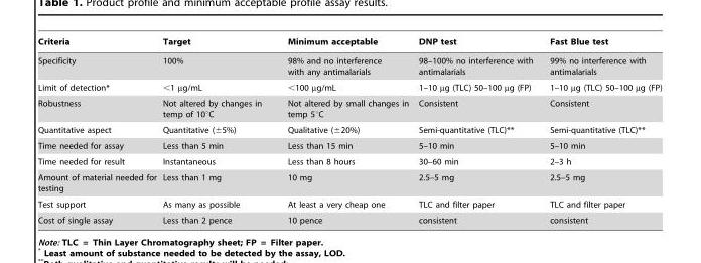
<table><thead><tr><td>Criteria</td><td>Target</td><td>Minimum acceptable</td><td>DNP test</td><td>Fast Blue test</td></tr></thead><tbody><tr><td>Specificity</td><td>100%</td><td>98% and no interference with any antimalarials</td><td>98–100% no interference with antimalarials</td><td>99% no interference with antimalarials</td></tr><tr><td>Limit of detection*</td><td>&lt;1 µg/mL</td><td>&lt;100 µg/mL</td><td>1–10 µg (TLC) 50–100 µg (FP)</td><td>1–10 µg (TLC) 50–100 µg (FP)</td></tr><tr><td>Robustness</td><td>Not altered by changes in temp of 10°C</td><td>Not altered by small changes in temp 5°C</td><td>Consistent</td><td>Consistent</td></tr><tr><td>Quantitative aspect</td><td>Quantitative (±5%)</td><td>Qualitative (±20%)</td><td>Semi-quantitative (TLC)**</td><td>Semi-quantitative (TLC)**</td></tr><tr><td>Time needed for assay</td><td>Less than 5 min</td><td>Less than 15 min</td><td>5–10 min</td><td>5–10 min</td></tr><tr><td>Time needed for result</td><td>Instantaneous</td><td>Less than 8 hours</td><td>30–60 min</td><td>2–3 h</td></tr><tr><td>Amount of material needed for testing</td><td>Less than 1 mg</td><td>10 mg</td><td>2.5–5 mg</td><td>2.5–5 mg</td></tr><tr><td>Test support</td><td>As many as possible</td><td>At least a very cheap one</td><td>TLC and filter paper</td><td>TLC and filter paper</td></tr><tr><td>Cost of single assay</td><td>Less than 2 pence</td><td>10 pence</td><td>consistent</td><td>consistent</td></tr></tbody></table>